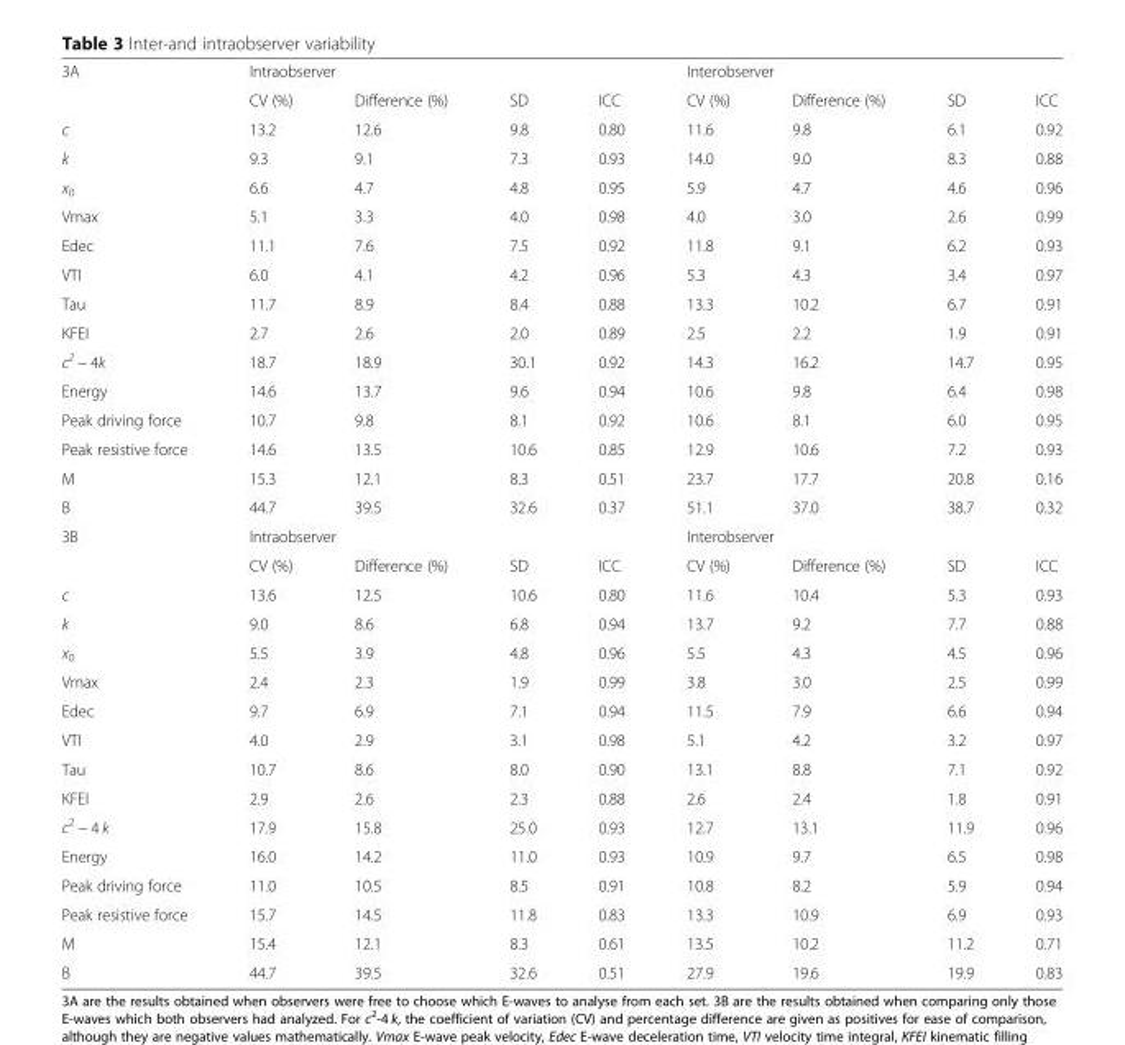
<table><tbody><tr><td rowspan="2">3A</td><td colspan="4">Intraobserver</td><td colspan="4">Interobserver</td></tr><tr><td>CV (%)</td><td>Difference (%)</td><td>SD</td><td>ICC</td><td>CV (%)</td><td>Difference (%)</td><td>SD</td><td>ICC</td></tr><tr><td>c</td><td>13.2</td><td>12.6</td><td>9.8</td><td>0.80</td><td>11.6</td><td>9.8</td><td>6.1</td><td>0.92</td></tr><tr><td>k</td><td>9.3</td><td>9.1</td><td>7.3</td><td>0.93</td><td>14.0</td><td>9.0</td><td>8.3</td><td>0.88</td></tr><tr><td>x<sub>0</sub></td><td>6.6</td><td>4.7</td><td>4.8</td><td>0.95</td><td>5.9</td><td>4.7</td><td>4.6</td><td>0.96</td></tr><tr><td>Vmax</td><td>5.1</td><td>3.3</td><td>4.0</td><td>0.98</td><td>4.0</td><td>3.0</td><td>2.6</td><td>0.99</td></tr><tr><td>Edec</td><td>11.1</td><td>7.6</td><td>7.5</td><td>0.92</td><td>11.8</td><td>9.1</td><td>6.2</td><td>0.93</td></tr><tr><td>VTI</td><td>6.0</td><td>4.1</td><td>4.2</td><td>0.96</td><td>5.3</td><td>4.3</td><td>3.4</td><td>0.97</td></tr><tr><td>Tau</td><td>11.7</td><td>8.9</td><td>8.4</td><td>0.88</td><td>13.3</td><td>10.2</td><td>6.7</td><td>0.91</td></tr><tr><td>KFEI</td><td>2.7</td><td>2.6</td><td>2.0</td><td>0.89</td><td>2.5</td><td>2.2</td><td>1.9</td><td>0.91</td></tr><tr><td>c<sup>2</sup> − 4k</td><td>18.7</td><td>18.9</td><td>30.1</td><td>0.92</td><td>14.3</td><td>16.2</td><td>14.7</td><td>0.95</td></tr><tr><td>Energy</td><td>14.6</td><td>13.7</td><td>9.6</td><td>0.94</td><td>10.6</td><td>9.8</td><td>6.4</td><td>0.98</td></tr><tr><td>Peak driving force</td><td>10.7</td><td>9.8</td><td>8.1</td><td>0.92</td><td>10.6</td><td>8.1</td><td>6.0</td><td>0.95</td></tr><tr><td>Peak resistive force</td><td>14.6</td><td>13.5</td><td>10.6</td><td>0.85</td><td>12.9</td><td>10.6</td><td>7.2</td><td>0.93</td></tr><tr><td>M</td><td>15.3</td><td>12.1</td><td>8.3</td><td>0.51</td><td>23.7</td><td>17.7</td><td>20.8</td><td>0.16</td></tr><tr><td>B</td><td>44.7</td><td>39.5</td><td>32.6</td><td>0.37</td><td>51.1</td><td>37.0</td><td>38.7</td><td>0.32</td></tr><tr><td rowspan="2">3B</td><td colspan="4">Intraobserver</td><td colspan="4">Interobserver</td></tr><tr><td>CV (%)</td><td>Difference (%)</td><td>SD</td><td>ICC</td><td>CV (%)</td><td>Difference (%)</td><td>SD</td><td>ICC</td></tr><tr><td>c</td><td>13.6</td><td>12.5</td><td>10.6</td><td>0.80</td><td>11.6</td><td>10.4</td><td>5.3</td><td>0.93</td></tr><tr><td>k</td><td>9.0</td><td>8.6</td><td>6.8</td><td>0.94</td><td>13.7</td><td>9.2</td><td>7.7</td><td>0.88</td></tr><tr><td>x<sub>0</sub></td><td>5.5</td><td>3.9</td><td>4.8</td><td>0.96</td><td>5.5</td><td>4.3</td><td>4.5</td><td>0.96</td></tr><tr><td>Vmax</td><td>2.4</td><td>2.3</td><td>1.9</td><td>0.99</td><td>3.8</td><td>3.0</td><td>2.5</td><td>0.99</td></tr><tr><td>Edec</td><td>9.7</td><td>6.9</td><td>7.1</td><td>0.94</td><td>11.5</td><td>7.9</td><td>6.6</td><td>0.94</td></tr><tr><td>VTI</td><td>4.0</td><td>2.9</td><td>3.1</td><td>0.98</td><td>5.1</td><td>4.2</td><td>3.2</td><td>0.97</td></tr><tr><td>Tau</td><td>10.7</td><td>8.6</td><td>8.0</td><td>0.90</td><td>13.1</td><td>8.8</td><td>7.1</td><td>0.92</td></tr><tr><td>KFEI</td><td>2.9</td><td>2.6</td><td>2.3</td><td>0.88</td><td>2.6</td><td>2.4</td><td>1.8</td><td>0.91</td></tr><tr><td>c<sup>2</sup> − 4 k</td><td>17.9</td><td>15.8</td><td>25.0</td><td>0.93</td><td>12.7</td><td>13.1</td><td>11.9</td><td>0.96</td></tr><tr><td>Energy</td><td>16.0</td><td>14.2</td><td>11.0</td><td>0.93</td><td>10.9</td><td>9.7</td><td>6.5</td><td>0.98</td></tr><tr><td>Peak driving force</td><td>11.0</td><td>10.5</td><td>8.5</td><td>0.91</td><td>10.8</td><td>8.2</td><td>5.9</td><td>0.94</td></tr><tr><td>Peak resistive force</td><td>15.7</td><td>14.5</td><td>11.8</td><td>0.83</td><td>13.3</td><td>10.9</td><td>6.9</td><td>0.93</td></tr><tr><td>M</td><td>15.4</td><td>12.1</td><td>8.3</td><td>0.61</td><td>13.5</td><td>10.2</td><td>11.2</td><td>0.71</td></tr><tr><td>B</td><td>44.7</td><td>39.5</td><td>32.6</td><td>0.51</td><td>27.9</td><td>19.6</td><td>19.9</td><td>0.83</td></tr></tbody></table>